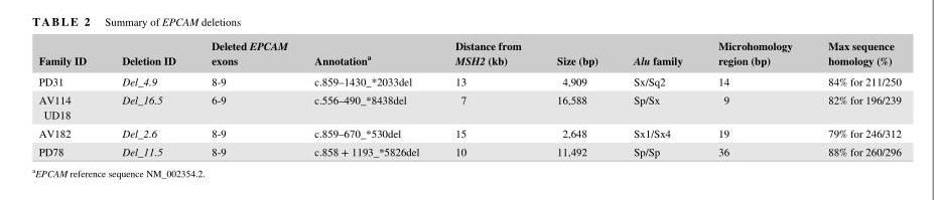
<table><thead><tr><td>Family ID</td><td>Deletion ID</td><td>Deleted EPCAM exons</td><td>Annotation<sup>a</sup></td><td>Distance from MSH2 (kb)</td><td>Size (bp)</td><td>Alu family</td><td>Microhomology region (bp)</td><td>Max sequence homology (%)</td></tr></thead><tbody><tr><td>PD31</td><td>Del_4.9</td><td>8‐9</td><td>c.859–1430_*2033del</td><td>13</td><td>4,909</td><td>Sx/Sq2</td><td>14</td><td>84% for 211/250</td></tr><tr><td>AV114 UD18</td><td>Del_16.5</td><td>6‐9</td><td>c.556–490_*8438del</td><td>7</td><td>16,588</td><td>Sp/Sx</td><td>9</td><td>82% for 196/239</td></tr><tr><td>AV182</td><td>Del_2.6</td><td>8‐9</td><td>c.859–670_*530del</td><td>15</td><td>2,648</td><td>Sx1/Sx4</td><td>19</td><td>79% for 246/312</td></tr><tr><td>PD78</td><td>Del_11.5</td><td>8‐9</td><td>c.858 + 1193_*5826del</td><td>10</td><td>11,492</td><td>Sp/Sp</td><td>36</td><td>88% for 260/296</td></tr></tbody></table>